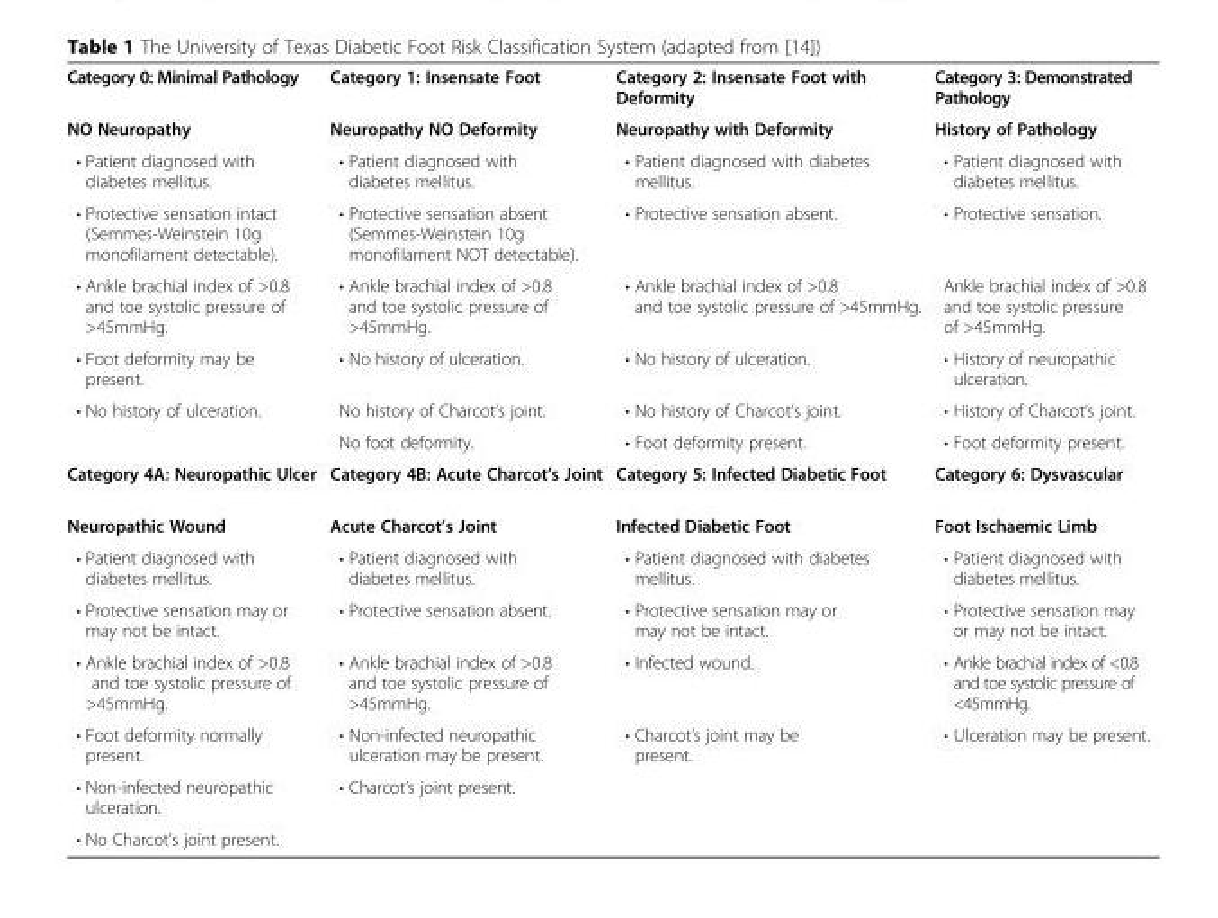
<table><tbody><tr><td>Category 0: Minimal Pathology</td><td>Category 1: Insensate Foot</td><td>Category 2: Insensate Foot with Deformity</td><td>Category 3: Demonstrated Pathology</td></tr><tr><td>NO Neuropathy</td><td>Neuropathy NO Deformity</td><td>Neuropathy with Deformity</td><td>History of Pathology</td></tr><tr><td>• Patient diagnosed with diabetes mellitus.</td><td>• Patient diagnosed with diabetes mellitus.</td><td>• Patient diagnosed with diabetes mellitus.</td><td>• Patient diagnosed with diabetes mellitus.</td></tr><tr><td>• Protective sensation intact (Semmes-Weinstein 10g monofilament detectable).</td><td>• Protective sensation absent (Semmes-Weinstein 10g monofilament NOT detectable).</td><td>• Protective sensation absent.</td><td>• Protective sensation.</td></tr><tr><td>• Ankle brachial index of &gt;0.8 and toe systolic pressure of &gt;45mmHg.</td><td>• Ankle brachial index of &gt;0.8 and toe systolic pressure of &gt;45mmHg.</td><td>• Ankle brachial index of &gt;0.8 and toe systolic pressure of &gt;45mmHg.</td><td>Ankle brachial index of &gt;0.8 and toe systolic pressure of &gt;45mmHg.</td></tr><tr><td>• Foot deformity may be present.</td><td>• No history of ulceration.</td><td>• No history of ulceration.</td><td>• History of neuropathic ulceration.</td></tr><tr><td rowspan="2">• No history of ulceration.</td><td>No history of Charcot’s joint.</td><td>• No history of Charcot’s joint.</td><td>• History of Charcot’s joint.</td></tr><tr><td>No foot deformity.</td><td>• Foot deformity present.</td><td>• Foot deformity present.</td></tr><tr><td>Category 4A: Neuropathic Ulcer</td><td>Category 4B: Acute Charcot’s Joint</td><td>Category 5: Infected Diabetic Foot</td><td>Category 6: Dysvascular</td></tr><tr><td>Neuropathic Wound</td><td>Acute Charcot’s Joint</td><td>Infected Diabetic Foot</td><td>Foot Ischaemic Limb</td></tr><tr><td>• Patient diagnosed with diabetes mellitus.</td><td>• Patient diagnosed with diabetes mellitus.</td><td>• Patient diagnosed with diabetes mellitus.</td><td>• Patient diagnosed with diabetes mellitus.</td></tr><tr><td>• Protective sensation may or may not be intact.</td><td>• Protective sensation absent.</td><td>• Protective sensation may or may not be intact.</td><td>• Protective sensation may or may not be intact.</td></tr><tr><td>• Ankle brachial index of &gt;0.8 and toe systolic pressure of &gt;45mmHg.</td><td>• Ankle brachial index of &gt;0.8 and toe systolic pressure of &gt;45mmHg.</td><td>• Infected wound.</td><td>• Ankle brachial index of &lt;0.8 and toe systolic pressure of &lt;45mmHg.</td></tr><tr><td>• Foot deformity normally present.</td><td>• Non-infected neuropathic ulceration may be present.</td><td>• Charcot’s joint may be present.</td><td>• Ulceration may be present.</td></tr><tr><td>• Non-infected neuropathic ulceration.</td><td>• Charcot’s joint present.</td><td></td><td></td></tr><tr><td>• No Charcot’s joint present.</td><td></td><td></td><td></td></tr></tbody></table>